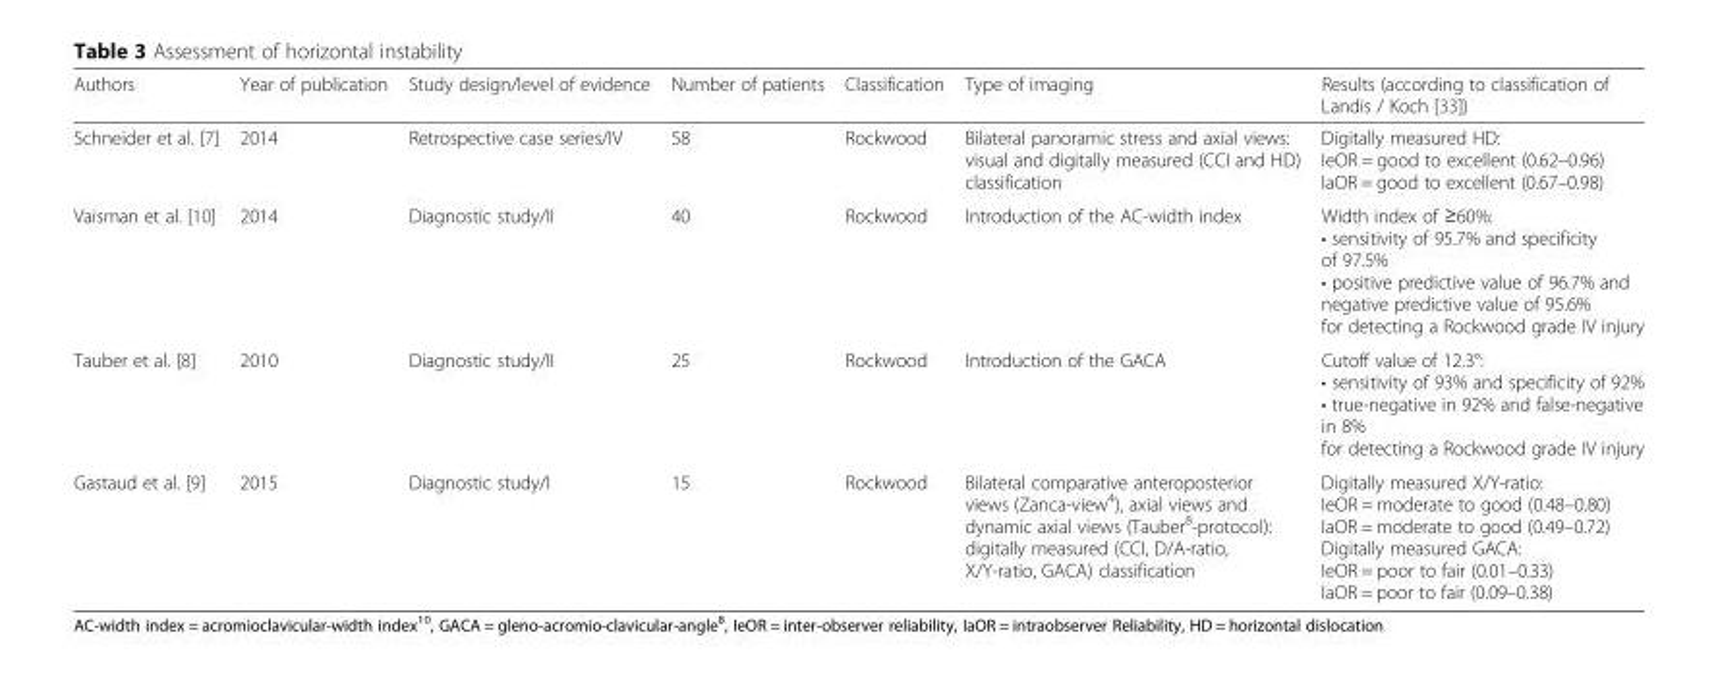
<table><thead><tr><td>Authors</td><td>Year of publication</td><td>Study design/level of evidence</td><td>Number of patients</td><td>Classification</td><td>Type of imaging</td><td>Results (according to classification of Landis / Koch [33])</td></tr></thead><tbody><tr><td>Schneider et al. [7]</td><td>2014</td><td>Retrospective case series/IV</td><td>58</td><td>Rockwood</td><td>Bilateral panoramic stress and axial views: visual and digitally measured (CCI and HD) classification</td><td>Digitally measured HD: IeOR = good to excellent (0.62–0.96) IaOR = good to excellent (0.67–0.98)</td></tr><tr><td>Vaisman et al. [10]</td><td>2014</td><td>Diagnostic study/II</td><td>40</td><td>Rockwood</td><td>Introduction of the AC-width index</td><td>Width index of ≥60%: • sensitivity of 95.7% and specificity of 97.5% • positive predictive value of 96.7% and negative predictive value of 95.6% for detecting a Rockwood grade IV injury</td></tr><tr><td>Tauber et al. [8]</td><td>2010</td><td>Diagnostic study/II</td><td>25</td><td>Rockwood</td><td>Introduction of the GACA</td><td>Cutoff value of 12.3°: • sensitivity of 93% and specificity of 92% • true-negative in 92% and false-negative in 8% for detecting a Rockwood grade IV injury</td></tr><tr><td>Gastaud et al. [9]</td><td>2015</td><td>Diagnostic study/I</td><td>15</td><td>Rockwood</td><td>Bilateral comparative anteroposterior views (Zanca-view<sup>4</sup>), axial views and dynamic axial views (Tauber<sup>8</sup>-protocol): digitally measured (CCI, D/A-ratio, X/Y-ratio, GACA) classification</td><td>Digitally measured X/Y-ratio: IeOR = moderate to good (0.48–0.80) IaOR = moderate to good (0.49–0.72) Digitally measured GACA: IeOR = poor to fair (0.01–0.33) IaOR = poor to fair (0.09–0.38)</td></tr></tbody></table>